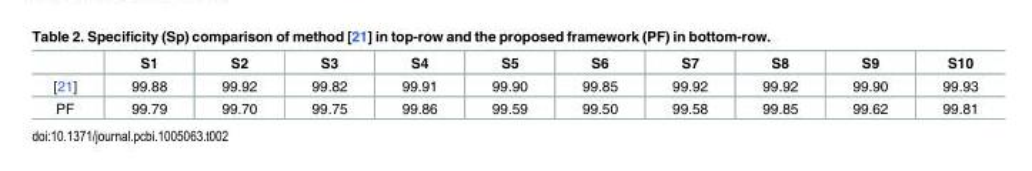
<table><thead><tr><td></td><td>S1</td><td>S2</td><td>S3</td><td>S4</td><td>S5</td><td>S6</td><td>S7</td><td>S8</td><td>S9</td><td>S10</td></tr></thead><tbody><tr><td>[21]</td><td>99.88</td><td>99.92</td><td>99.82</td><td>99.91</td><td>99.90</td><td>99.85</td><td>99.92</td><td>99.92</td><td>99.90</td><td>99.93</td></tr><tr><td>PF</td><td>99.79</td><td>99.70</td><td>99.75</td><td>99.86</td><td>99.59</td><td>99.50</td><td>99.58</td><td>99.85</td><td>99.62</td><td>99.81</td></tr></tbody></table>